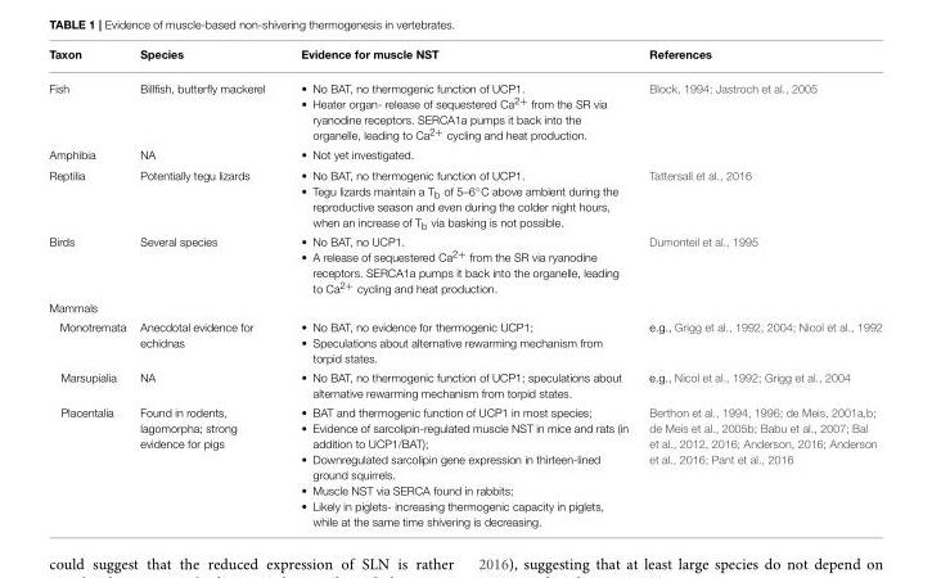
<table><thead><tr><td>Taxon</td><td>Species</td><td>Evidence for muscle NST</td><td>References</td></tr></thead><tbody><tr><td>Fish</td><td>Billfish, butterfly mackerel</td><td>• No BAT, no thermogenic function of UCP1. • Heater organ- release of sequestered Ca2+ from the SR via ryanodine receptors. SERCA1a pumps it back into the organelle, leading to Ca2+ cycling and heat production.</td><td>Block, 1994; Jastroch et al., 2005</td></tr><tr><td>Amphibia</td><td>NA</td><td>• Not yet investigated.</td><td></td></tr><tr><td>Reptilia</td><td>Potentially tegu lizards</td><td>• No BAT, no thermogenic function of UCP1. • Tegu lizards maintain a Tb of 5–6◦C above ambient during the reproductive season and even during the colder night hours, when an increase of Tb via basking is not possible.</td><td>Tattersall et al., 2016</td></tr><tr><td>Birds</td><td>Several species</td><td>• No BAT, no UCP1. • A release of sequestered Ca2+ from the SR via ryanodine receptors. SERCA1a pumps it back into the organelle, leading to Ca2+ cycling and heat production.</td><td>Dumonteil et al., 1995</td></tr><tr><td colspan="4">Mammals</td></tr><tr><td>Monotremata</td><td>Anecdotal evidence for echidnas</td><td>• No BAT, no evidence for thermogenic UCP1; • Speculations about alternative rewarming mechanism from torpid states.</td><td>e.g., Grigg et al., 1992, 2004; Nicol et al., 1992</td></tr><tr><td>Marsupialia</td><td>NA</td><td>• No BAT, no thermogenic function of UCP1; speculations about alternative rewarming mechanism from torpid states.</td><td>e.g., Nicol et al., 1992; Grigg et al., 2004</td></tr><tr><td>Placentalia</td><td>Found in rodents, lagomorpha; strong evidence for pigs</td><td>• BAT and thermogenic function of UCP1 in most species; • Evidence of sarcolipin-regulated muscle NST in mice and rats (in addition to UCP1/BAT); • Downregulated sarcolipin gene expression in thirteen-lined ground squirrels. • Muscle NST via SERCA found in rabbits; • Likely in piglets- increasing thermogenic capacity in piglets, while at the same time shivering is decreasing.</td><td>Berthon et al., 1994, 1996; de Meis, 2001a,b; de Meis et al., 2005b; Babu et al., 2007; Bal et al., 2012, 2016; Anderson, 2016; Anderson et al., 2016; Pant et al., 2016</td></tr></tbody></table>